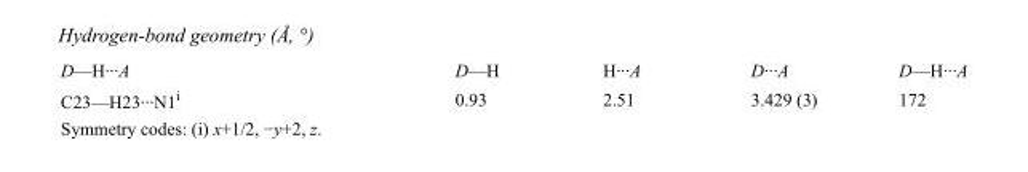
<table><tbody><tr><td>D—H···A</td><td>D—H</td><td>H···A</td><td>D···A</td><td>D—H···A</td></tr><tr><td>C23—H23···N1<sup>i</sup></td><td>0.93</td><td>2.51</td><td>3.429 (3)</td><td>172</td></tr></tbody></table>